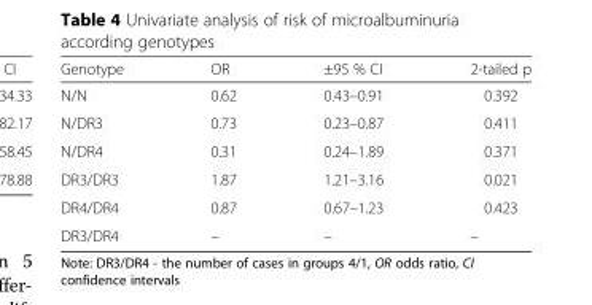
<table><thead><tr><td>Genotype</td><td>OR</td><td>±95 % CI</td><td>2-tailed p</td></tr></thead><tbody><tr><td>N/N</td><td>0.62</td><td>0.43–0.91</td><td>0.392</td></tr><tr><td>N/DR3</td><td>0.73</td><td>0.23–0.87</td><td>0.411</td></tr><tr><td>N/DR4</td><td>0.31</td><td>0.24–1.89</td><td>0.371</td></tr><tr><td>DR3/DR3</td><td>1.87</td><td>1.21–3.16</td><td>0.021</td></tr><tr><td>DR4/DR4</td><td>0.87</td><td>0.67–1.23</td><td>0.423</td></tr><tr><td>DR3/DR4</td><td>–</td><td>–</td><td>–</td></tr></tbody></table>